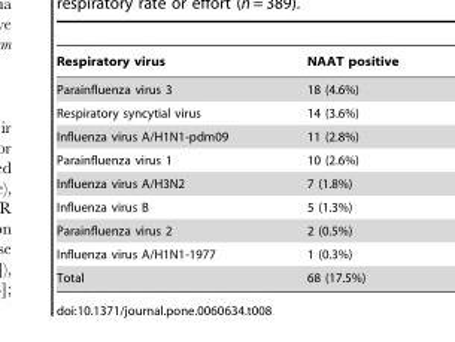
<table><thead><tr><td>Respiratory virus</td><td>NAAT positive</td></tr></thead><tbody><tr><td>Parainfluenza virus 3</td><td>18 (4.6%)</td></tr><tr><td>Respiratory syncytial virus</td><td>14 (3.6%)</td></tr><tr><td>Influenza virus A/H1N1-pdm09</td><td>11 (2.8%)</td></tr><tr><td>Parainfluenza virus 1</td><td>10 (2.6%)</td></tr><tr><td>Influenza virus A/H3N2</td><td>7 (1.8%)</td></tr><tr><td>Influenza virus B</td><td>5 (1.3%)</td></tr><tr><td>Parainfluenza virus 2</td><td>2 (0.5%)</td></tr><tr><td>Influenza virus A/H1N1-1977</td><td>1 (0.3%)</td></tr><tr><td>Total</td><td>68 (17.5%)</td></tr></tbody></table>